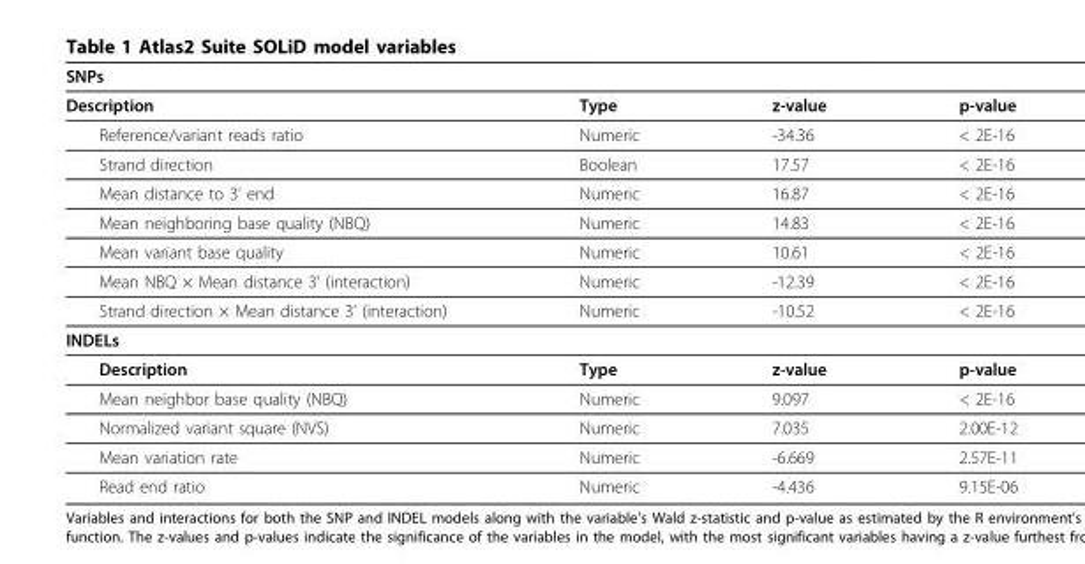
<table><thead><tr><td>SNPs</td><td></td><td></td><td></td></tr></thead><tbody><tr><td>Description</td><td>Type</td><td>z-value</td><td>p-value</td></tr><tr><td>Reference/variant reads ratio</td><td>Numeric</td><td>-34.36</td><td>&lt; 2E-16</td></tr><tr><td>Strand direction</td><td>Boolean</td><td>17.57</td><td>&lt; 2E-16</td></tr><tr><td>Mean distance to 3’ end</td><td>Numeric</td><td>16.87</td><td>&lt; 2E-16</td></tr><tr><td>Mean neighboring base quality (NBQ)</td><td>Numeric</td><td>14.83</td><td>&lt; 2E-16</td></tr><tr><td>Mean variant base quality</td><td>Numeric</td><td>10.61</td><td>&lt; 2E-16</td></tr><tr><td>Mean NBQ × Mean distance 3’ (interaction)</td><td>Numeric</td><td>-12.39</td><td>&lt; 2E-16</td></tr><tr><td>Strand direction × Mean distance 3’ (interaction)</td><td>Numeric</td><td>-10.52</td><td>&lt; 2E-16</td></tr><tr><td colspan="4">INDELs</td></tr><tr><td>Description</td><td>Type</td><td>z-value</td><td>p-value</td></tr><tr><td>Mean neighbor base quality (NBQ)</td><td>Numeric</td><td>9.097</td><td>&lt; 2E-16</td></tr><tr><td>Normalized variant square (NVS)</td><td>Numeric</td><td>7.035</td><td>2.00E-12</td></tr><tr><td>Mean variation rate</td><td>Numeric</td><td>-6.669</td><td>2.57E-11</td></tr><tr><td>Read end ratio</td><td>Numeric</td><td>-4.436</td><td>9.15E-06</td></tr></tbody></table>